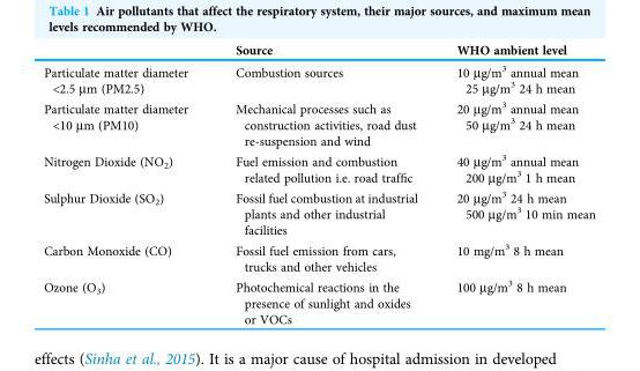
<table><thead><tr><td></td><td>Source</td><td>WHO ambient level</td></tr></thead><tbody><tr><td>Particulate matter diameter &lt;2.5 μm (PM2.5)</td><td>Combustion sources</td><td>10 μg/m<sup>3</sup> annual mean 25 μg/m<sup>3</sup> 24 h mean</td></tr><tr><td>Particulate matter diameter &lt;10 μm (PM10)</td><td>Mechanical processes such as construction activities, road dust re-suspension and wind</td><td>20 μg/m<sup>3</sup> annual mean 50 μg/m<sup>3</sup> 24 h mean</td></tr><tr><td>Nitrogen Dioxide (NO<sub>2</sub>)</td><td>Fuel emission and combustion related pollution i.e. road traffic</td><td>40 μg/m<sup>3</sup> annual mean 200 μg/m<sup>3</sup> 1 h mean</td></tr><tr><td>Sulphur Dioxide (SO<sub>2</sub>)</td><td>Fossil fuel combustion at industrial plants and other industrial facilities</td><td>20 μg/m<sup>3</sup> 24 h mean 500 μg/m<sup>3</sup> 10 min mean</td></tr><tr><td>Carbon Monoxide (CO)</td><td>Fossil fuel emission from cars, trucks and other vehicles</td><td>10 mg/m<sup>3</sup> 8 h mean</td></tr><tr><td>Ozone (O<sub>3</sub>)</td><td>Photochemical reactions in the presence of sunlight and oxides or VOCs</td><td>100 μg/m<sup>3</sup> 8 h mean</td></tr></tbody></table>